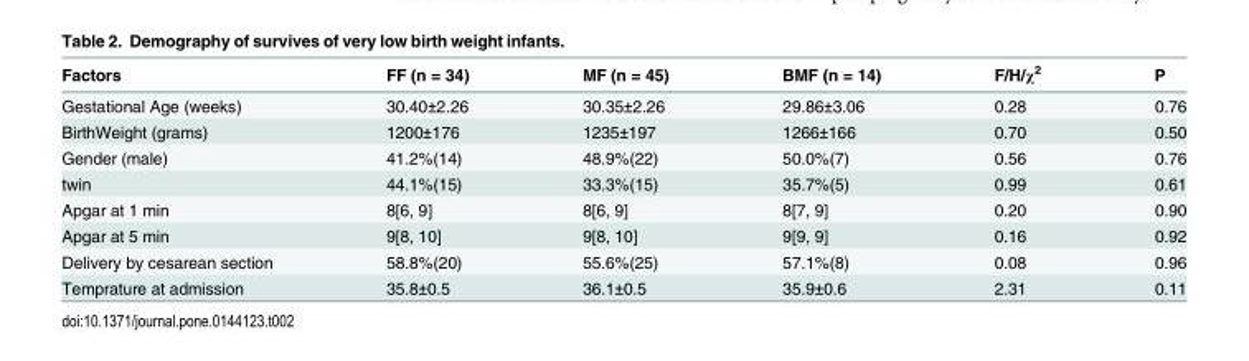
<table><thead><tr><td>Factors</td><td>FF (n = 34)</td><td>MF (n = 45)</td><td>BMF (n = 14)</td><td>F/H/χ<sup>2</sup></td><td>P</td></tr></thead><tbody><tr><td>Gestational Age (weeks)</td><td>30.40±2.26</td><td>30.35±2.26</td><td>29.86±3.06</td><td>0.28</td><td>0.76</td></tr><tr><td>BirthWeight (grams)</td><td>1200±176</td><td>1235±197</td><td>1266±166</td><td>0.70</td><td>0.50</td></tr><tr><td>Gender (male)</td><td>41.2%(14)</td><td>48.9%(22)</td><td>50.0%(7)</td><td>0.56</td><td>0.76</td></tr><tr><td>twin</td><td>44.1%(15)</td><td>33.3%(15)</td><td>35.7%(5)</td><td>0.99</td><td>0.61</td></tr><tr><td>Apgar at 1 min</td><td>8[6, 9]</td><td>8[6, 9]</td><td>8[7, 9]</td><td>0.20</td><td>0.90</td></tr><tr><td>Apgar at 5 min</td><td>9[8, 10]</td><td>9[8, 10]</td><td>9[9, 9]</td><td>0.16</td><td>0.92</td></tr><tr><td>Delivery by cesarean section</td><td>58.8%(20)</td><td>55.6%(25)</td><td>57.1%(8)</td><td>0.08</td><td>0.96</td></tr><tr><td>Temprature at admission</td><td>35.8±0.5</td><td>36.1±0.5</td><td>35.9±0.6</td><td>2.31</td><td>0.11</td></tr></tbody></table>